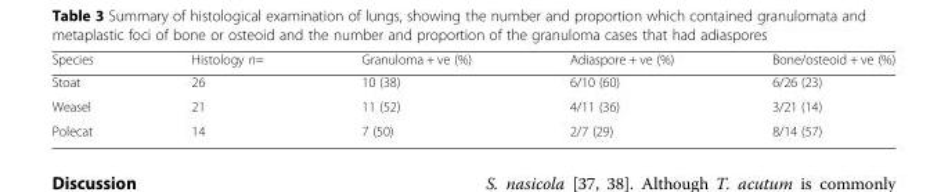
<table><thead><tr><td>Species</td><td>Histology n=</td><td>Granuloma + ve (%)</td><td>Adiaspore + ve (%)</td><td>Bone/osteoid + ve (%)</td></tr></thead><tbody><tr><td>Stoat</td><td>26</td><td>10 (38)</td><td>6/10 (60)</td><td>6/26 (23)</td></tr><tr><td>Weasel</td><td>21</td><td>11 (52)</td><td>4/11 (36)</td><td>3/21 (14)</td></tr><tr><td>Polecat</td><td>14</td><td>7 (50)</td><td>2/7 (29)</td><td>8/14 (57)</td></tr></tbody></table>